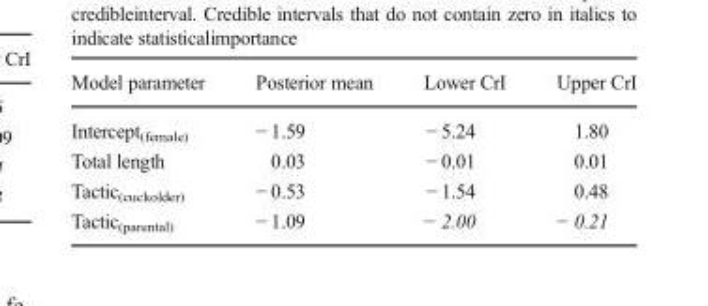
<table><thead><tr><td>Model parameter</td><td>Posterior mean</td><td>Lower CrI</td><td>Upper CrI</td></tr></thead><tbody><tr><td>Intercept<sub>(female)</sub></td><td>− 1.59</td><td>− 5.24</td><td>1.80</td></tr><tr><td>Total length</td><td>0.03</td><td>− 0.01</td><td>0.01</td></tr><tr><td>Tactic<sub>(cuckolder)</sub></td><td>− 0.53</td><td>− 1.54</td><td>0.48</td></tr><tr><td>Tactic<sub>(parental)</sub></td><td>− 1.09</td><td>− 2.00</td><td>− 0.21</td></tr></tbody></table>